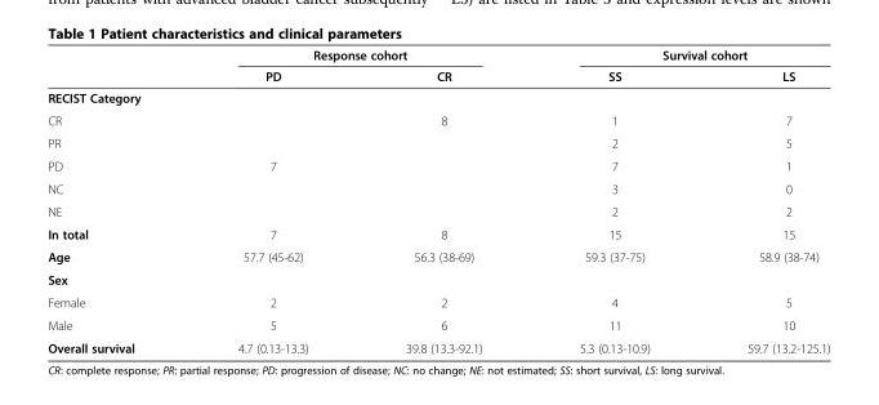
<table><thead><tr><td rowspan="2"></td><td colspan="2">Response cohort</td><td colspan="2">Survival cohort</td></tr><tr><td>PD</td><td>CR</td><td>SS</td><td>LS</td></tr></thead><tbody><tr><td colspan="5">RECIST Category</td></tr><tr><td>CR</td><td></td><td>8</td><td>1</td><td>7</td></tr><tr><td>PR</td><td></td><td></td><td>2</td><td>5</td></tr><tr><td>PD</td><td>7</td><td></td><td>7</td><td>1</td></tr><tr><td>NC</td><td></td><td></td><td>3</td><td>0</td></tr><tr><td>NE</td><td></td><td></td><td>2</td><td>2</td></tr><tr><td>In total</td><td>7</td><td>8</td><td>15</td><td>15</td></tr><tr><td>Age</td><td>57.7 (45-62)</td><td>56.3 (38-69)</td><td>59.3 (37-75)</td><td>58.9 (38-74)</td></tr><tr><td colspan="5">Sex</td></tr><tr><td>Female</td><td>2</td><td>2</td><td>4</td><td>5</td></tr><tr><td>Male</td><td>5</td><td>6</td><td>11</td><td>10</td></tr><tr><td>Overall survival</td><td>4.7 (0.13-13.3)</td><td>39.8 (13.3-92.1)</td><td>5.3 (0.13-10.9)</td><td>59.7 (13.2-125.1)</td></tr></tbody></table>